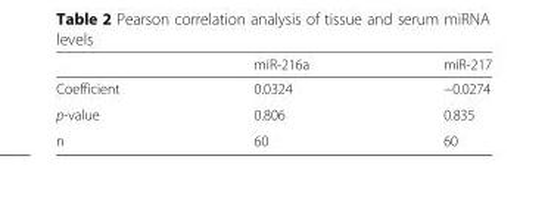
<table><thead><tr><td></td><td>miR-216a</td><td>miR-217</td></tr></thead><tbody><tr><td>Coefficient</td><td>0.0324</td><td>−0.0274</td></tr><tr><td>p-value</td><td>0.806</td><td>0.835</td></tr><tr><td>n</td><td>60</td><td>60</td></tr></tbody></table>